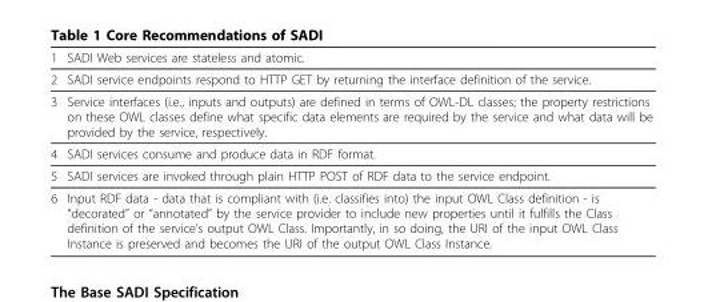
<table><thead><tr><td>1</td><td>SADI Web services are stateless and atomic.</td></tr></thead><tbody><tr><td>2</td><td>SADI service endpoints respond to HTTP GET by returning the interface definition of the service.</td></tr><tr><td>3</td><td>Service interfaces (i.e., inputs and outputs) are defined in terms of OWL-DL classes; the property restrictions on these OWL classes define what specific data elements are required by the service and what data will be provided by the service, respectively.</td></tr><tr><td>4</td><td>SADI services consume and produce data in RDF format.</td></tr><tr><td>5</td><td>SADI services are invoked through plain HTTP POST of RDF data to the service endpoint.</td></tr><tr><td>6</td><td>Input RDF data - data that is compliant with (i.e. classifies into) the input OWL Class definition - is “decorated” or “annotated” by the service provider to include new properties until it fulfills the Class definition of the service’s output OWL Class. Importantly, in so doing, the URI of the input OWL Class Instance is preserved and becomes the URI of the output OWL Class Instance.</td></tr></tbody></table>